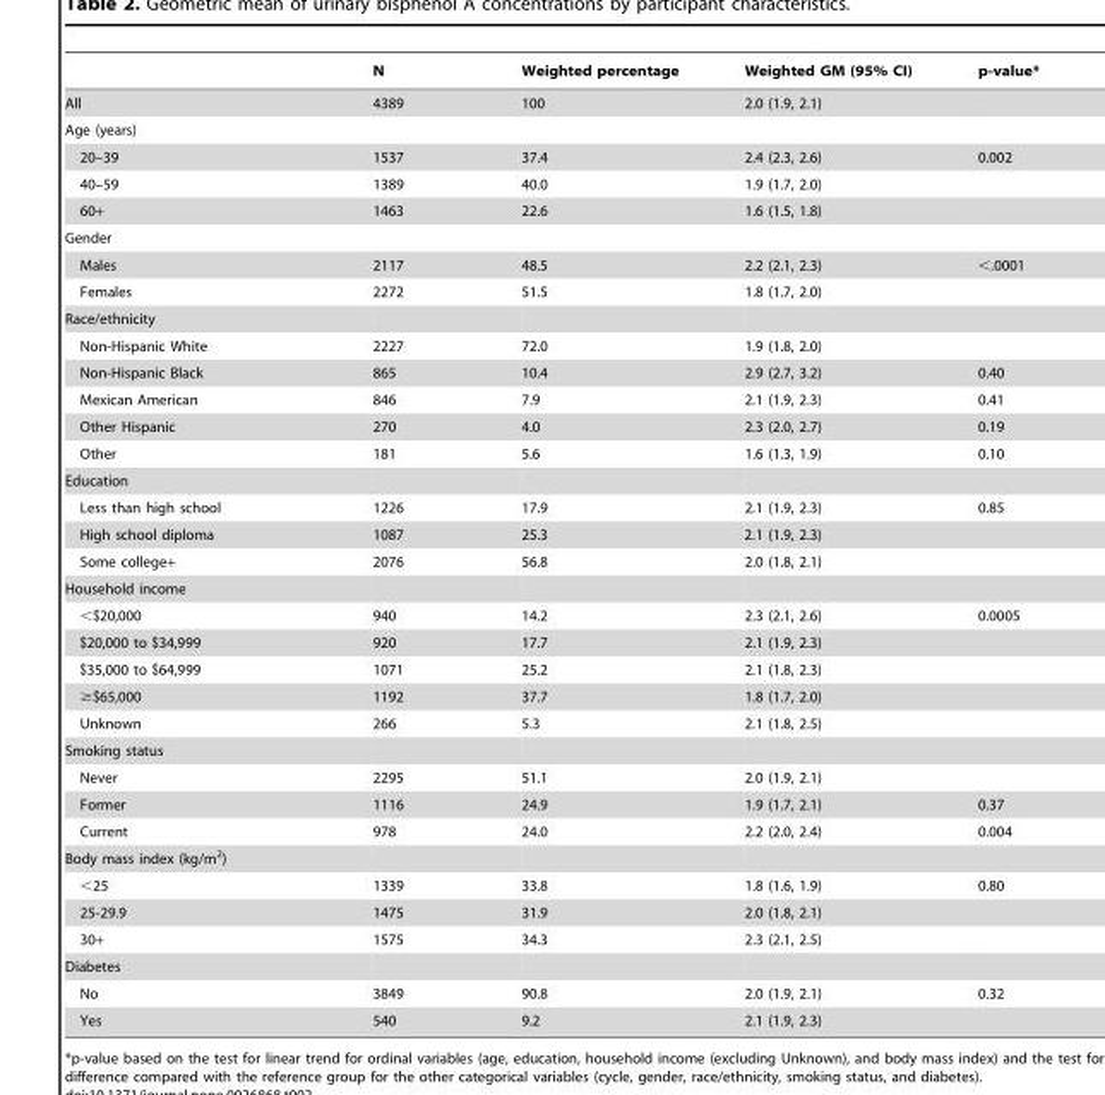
<table><thead><tr><td></td><td>N</td><td>Weighted percentage</td><td>Weighted GM (95% CI)</td><td>p-value*</td></tr></thead><tbody><tr><td>All</td><td>4389</td><td>100</td><td>2.0 (1.9, 2.1)</td><td></td></tr><tr><td colspan="5">Age (years)</td></tr><tr><td>20–39</td><td>1537</td><td>37.4</td><td>2.4 (2.3, 2.6)</td><td>0.002</td></tr><tr><td>40–59</td><td>1389</td><td>40.0</td><td>1.9 (1.7, 2.0)</td><td></td></tr><tr><td>60+</td><td>1463</td><td>22.6</td><td>1.6 (1.5, 1.8)</td><td></td></tr><tr><td colspan="5">Gender</td></tr><tr><td>Males</td><td>2117</td><td>48.5</td><td>2.2 (2.1, 2.3)</td><td>&lt;.0001</td></tr><tr><td>Females</td><td>2272</td><td>51.5</td><td>1.8 (1.7, 2.0)</td><td></td></tr><tr><td colspan="5">Race/ethnicity</td></tr><tr><td>Non-Hispanic White</td><td>2227</td><td>72.0</td><td>1.9 (1.8, 2.0)</td><td></td></tr><tr><td>Non-Hispanic Black</td><td>865</td><td>10.4</td><td>2.9 (2.7, 3.2)</td><td>0.40</td></tr><tr><td>Mexican American</td><td>846</td><td>7.9</td><td>2.1 (1.9, 2.3)</td><td>0.41</td></tr><tr><td>Other Hispanic</td><td>270</td><td>4.0</td><td>2.3 (2.0, 2.7)</td><td>0.19</td></tr><tr><td>Other</td><td>181</td><td>5.6</td><td>1.6 (1.3, 1.9)</td><td>0.10</td></tr><tr><td colspan="5">Education</td></tr><tr><td>Less than high school</td><td>1226</td><td>17.9</td><td>2.1 (1.9, 2.3)</td><td>0.85</td></tr><tr><td>High school diploma</td><td>1087</td><td>25.3</td><td>2.1 (1.9, 2.3)</td><td></td></tr><tr><td>Some college+</td><td>2076</td><td>56.8</td><td>2.0 (1.8, 2.1)</td><td></td></tr><tr><td colspan="5">Household income</td></tr><tr><td>&lt;$20,000</td><td>940</td><td>14.2</td><td>2.3 (2.1, 2.6)</td><td>0.0005</td></tr><tr><td>$20,000 to $34,999</td><td>920</td><td>17.7</td><td>2.1 (1.9, 2.3)</td><td></td></tr><tr><td>$35,000 to $64,999</td><td>1071</td><td>25.2</td><td>2.1 (1.8, 2.3)</td><td></td></tr><tr><td>≥$65,000</td><td>1192</td><td>37.7</td><td>1.8 (1.7, 2.0)</td><td></td></tr><tr><td>Unknown</td><td>266</td><td>5.3</td><td>2.1 (1.8, 2.5)</td><td></td></tr><tr><td colspan="5">Smoking status</td></tr><tr><td>Never</td><td>2295</td><td>51.1</td><td>2.0 (1.9, 2.1)</td><td></td></tr><tr><td>Former</td><td>1116</td><td>24.9</td><td>1.9 (1.7, 2.1)</td><td>0.37</td></tr><tr><td>Current</td><td>978</td><td>24.0</td><td>2.2 (2.0, 2.4)</td><td>0.004</td></tr><tr><td colspan="5">Body mass index (kg/m<sup>2</sup>)</td></tr><tr><td>&lt;25</td><td>1339</td><td>33.8</td><td>1.8 (1.6, 1.9)</td><td>0.80</td></tr><tr><td>25-29.9</td><td>1475</td><td>31.9</td><td>2.0 (1.8, 2.1)</td><td></td></tr><tr><td>30+</td><td>1575</td><td>34.3</td><td>2.3 (2.1, 2.5)</td><td></td></tr><tr><td colspan="5">Diabetes</td></tr><tr><td>No</td><td>3849</td><td>90.8</td><td>2.0 (1.9, 2.1)</td><td>0.32</td></tr><tr><td>Yes</td><td>540</td><td>9.2</td><td>2.1 (1.9, 2.3)</td><td></td></tr></tbody></table>